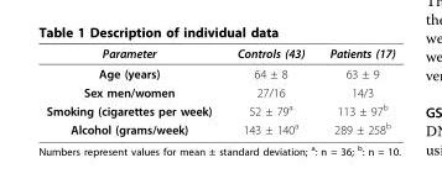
<table><thead><tr><td>Parameter</td><td>Controls (43)</td><td>Patients (17)</td></tr></thead><tbody><tr><td>Age (years)</td><td>64 ± 8</td><td>63 ± 9</td></tr><tr><td>Sex men/women</td><td>27/16</td><td>14/3</td></tr><tr><td>Smoking (cigarettes per week)</td><td>52 ± 79<sup>a</sup></td><td>113 ± 97<sup>b</sup></td></tr><tr><td>Alcohol (grams/week)</td><td>143 ± 140<sup>a</sup></td><td>289 ± 258<sup>b</sup></td></tr></tbody></table>